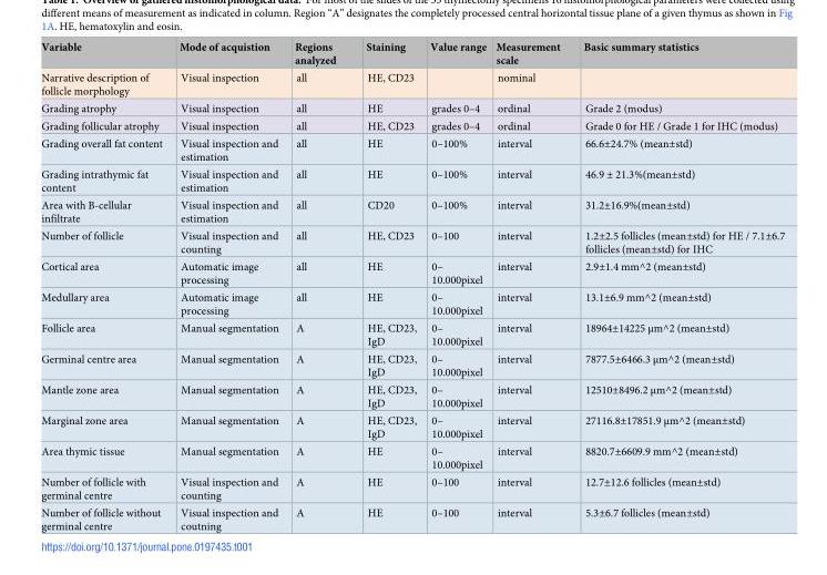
<table><thead><tr><td>Variable</td><td>Mode of acquistion</td><td>Regions analyzed</td><td>Staining</td><td>Value range</td><td>Measurement scale</td><td>Basic summary statistics</td></tr></thead><tbody><tr><td>Narrative description of follicle morphology</td><td>Visual inspection</td><td>all</td><td>HE, CD23</td><td></td><td>nominal</td><td></td></tr><tr><td>Grading atrophy</td><td>Visual inspection</td><td>all</td><td>HE</td><td>grades 0–4</td><td>ordinal</td><td>Grade 2 (modus)</td></tr><tr><td>Grading follicular atrophy</td><td>Visual inspection</td><td>all</td><td>HE, CD23</td><td>grades 0–4</td><td>ordinal</td><td>Grade 0 for HE / Grade 1 for IHC (modus)</td></tr><tr><td>Grading overall fat content</td><td>Visual inspection and estimation</td><td>all</td><td>HE</td><td>0–100%</td><td>interval</td><td>66.6±24.7% (mean±std)</td></tr><tr><td>Grading intrathymic fat content</td><td>Visual inspection and estimation</td><td>all</td><td>HE</td><td>0–100%</td><td>interval</td><td>46.9 ± 21.3%(mean±std)</td></tr><tr><td>Area with B-cellular infiltrate</td><td>Visual inspection and estimation</td><td>all</td><td>CD20</td><td>0–100%</td><td>interval</td><td>31.2±16.9%(mean±std)</td></tr><tr><td>Number of follicle</td><td>Visual inspection and counting</td><td>all</td><td>HE, CD23</td><td>0–100</td><td>interval</td><td>1.2±2.5 follicles (mean±std) for HE / 7.1±6.7 follicles (mean±std) for IHC</td></tr><tr><td>Cortical area</td><td>Automatic image processing</td><td>all</td><td>HE</td><td>0– 10.000pixel</td><td>interval</td><td>2.9±1.4 mm^2 (mean±std)</td></tr><tr><td>Medullary area</td><td>Automatic image processing</td><td>all</td><td>HE</td><td>0– 10.000pixel</td><td>interval</td><td>13.1±6.9 mm^2 (mean±std)</td></tr><tr><td>Follicle area</td><td>Manual segmentation</td><td>A</td><td>HE, CD23, IgD</td><td>0– 10.000pixel</td><td>interval</td><td>18964±14225 μm^2 (mean±std)</td></tr><tr><td>Germinal centre area</td><td>Manual segmentation</td><td>A</td><td>HE, CD23, IgD</td><td>0– 10.000pixel</td><td>interval</td><td>7877.5±6466.3 μm^2 (mean±std)</td></tr><tr><td>Mantle zone area</td><td>Manual segmentation</td><td>A</td><td>HE, CD23, IgD</td><td>0– 10.000pixel</td><td>interval</td><td>12510±8496.2 μm^2 (mean±std)</td></tr><tr><td>Marginal zone area</td><td>Manual segmentation</td><td>A</td><td>HE, CD23, IgD</td><td>0– 10.000pixel</td><td>interval</td><td>27116.8±17851.9 μm^2 (mean±std)</td></tr><tr><td>Area thymic tissue</td><td>Manual segmentation</td><td>A</td><td>HE</td><td>0– 10.000pixel</td><td>interval</td><td>8820.7±6609.9 mm^2 (mean±std)</td></tr><tr><td>Number of follicle with germinal centre</td><td>Visual inspection and counting</td><td>A</td><td>HE</td><td>0–100</td><td>interval</td><td>12.7±12.6 follicles (mean±std)</td></tr><tr><td>Number of follicle without germinal centre</td><td>Visual inspection and coutning</td><td>A</td><td>HE</td><td>0–100</td><td>interval</td><td>5.3±6.7 follicles (mean±std)</td></tr></tbody></table>